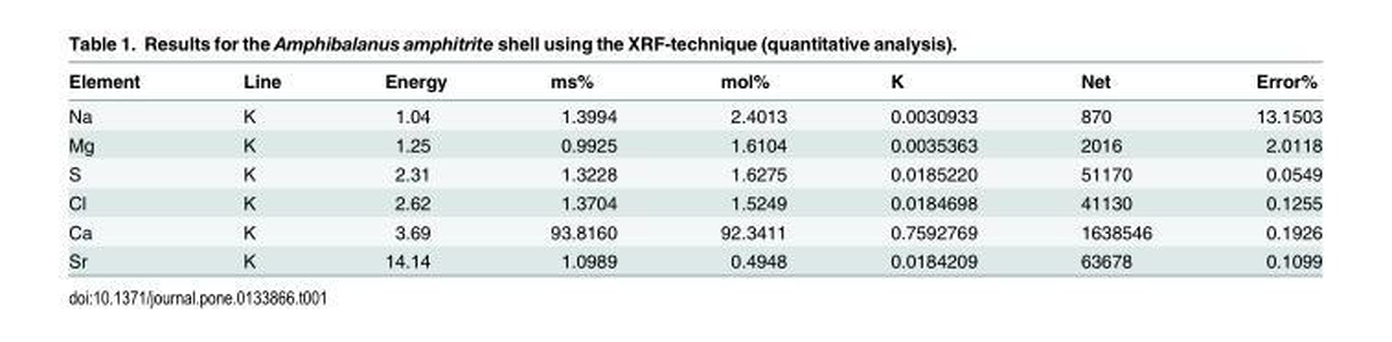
<table><thead><tr><td>Element</td><td>Line</td><td>Energy</td><td>ms%</td><td>mol%</td><td>K</td><td>Net</td><td>Error%</td></tr></thead><tbody><tr><td>Na</td><td>K</td><td>1.04</td><td>1.3994</td><td>2.4013</td><td>0.0030933</td><td>870</td><td>13.1503</td></tr><tr><td>Mg</td><td>K</td><td>1.25</td><td>0.9925</td><td>1.6104</td><td>0.0035363</td><td>2016</td><td>2.0118</td></tr><tr><td>S</td><td>K</td><td>2.31</td><td>1.3228</td><td>1.6275</td><td>0.0185220</td><td>51170</td><td>0.0549</td></tr><tr><td>Cl</td><td>K</td><td>2.62</td><td>1.3704</td><td>1.5249</td><td>0.0184698</td><td>41130</td><td>0.1255</td></tr><tr><td>Ca</td><td>K</td><td>3.69</td><td>93.8160</td><td>92.3411</td><td>0.7592769</td><td>1638546</td><td>0.1926</td></tr><tr><td>Sr</td><td>K</td><td>14.14</td><td>1.0989</td><td>0.4948</td><td>0.0184209</td><td>63678</td><td>0.1099</td></tr></tbody></table>